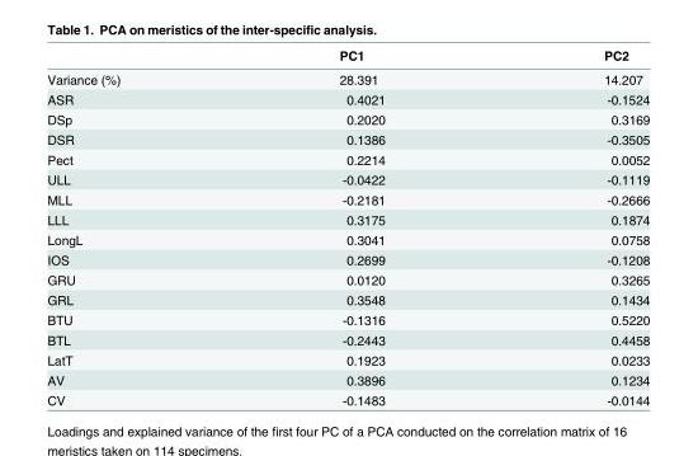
<table><thead><tr><td></td><td>PC1</td><td>PC2</td></tr></thead><tbody><tr><td>Variance (%)</td><td>28.391</td><td>14.207</td></tr><tr><td>ASR</td><td>0.4021</td><td>-0.1524</td></tr><tr><td>DSp</td><td>0.2020</td><td>0.3169</td></tr><tr><td>DSR</td><td>0.1386</td><td>-0.3505</td></tr><tr><td>Pect</td><td>0.2214</td><td>0.0052</td></tr><tr><td>ULL</td><td>-0.0422</td><td>-0.1119</td></tr><tr><td>MLL</td><td>-0.2181</td><td>-0.2666</td></tr><tr><td>LLL</td><td>0.3175</td><td>0.1874</td></tr><tr><td>LongL</td><td>0.3041</td><td>0.0758</td></tr><tr><td>IOS</td><td>0.2699</td><td>-0.1208</td></tr><tr><td>GRU</td><td>0.0120</td><td>0.3265</td></tr><tr><td>GRL</td><td>0.3548</td><td>0.1434</td></tr><tr><td>BTU</td><td>-0.1316</td><td>0.5220</td></tr><tr><td>BTL</td><td>-0.2443</td><td>0.4458</td></tr><tr><td>LatT</td><td>0.1923</td><td>0.0233</td></tr><tr><td>AV</td><td>0.3896</td><td>0.1234</td></tr><tr><td>CV</td><td>-0.1483</td><td>-0.0144</td></tr></tbody></table>